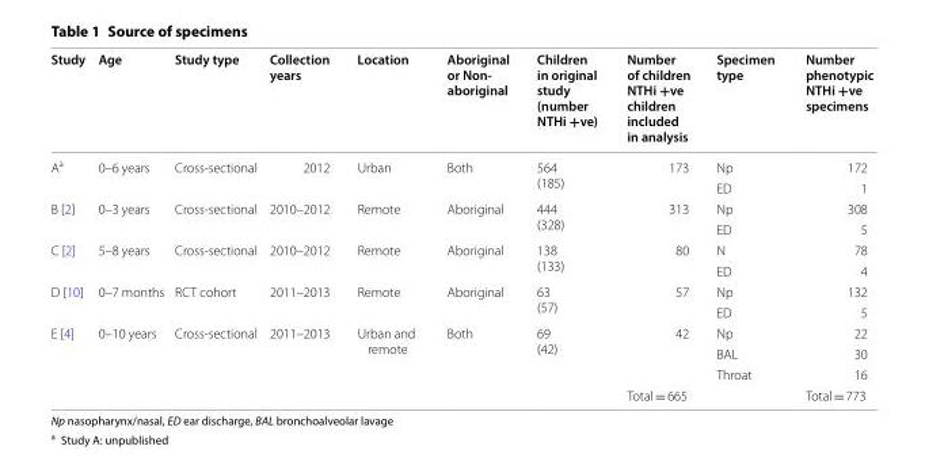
<table><thead><tr><td>Study</td><td>Age</td><td>Study type</td><td>Collection years</td><td>Location</td><td>Aboriginal or Non- aboriginal</td><td>Children in original study (number NTHi +ve)</td><td>Number of children NTHi +ve children included in analysis</td><td>Specimen type</td><td>Number phenotypic NTHi +ve specimens</td></tr></thead><tbody><tr><td rowspan="2">A<sup>a</sup></td><td rowspan="2">0–6 years</td><td rowspan="2">Cross‑sectional</td><td rowspan="2">2012</td><td rowspan="2">Urban</td><td rowspan="2">Both</td><td rowspan="2">564 (185)</td><td rowspan="2">173</td><td>Np</td><td>172</td></tr><tr><td>ED</td><td>1</td></tr><tr><td rowspan="2">B [2]</td><td rowspan="2">0–3 years</td><td rowspan="2">Cross‑sectional</td><td rowspan="2">2010–2012</td><td rowspan="2">Remote</td><td rowspan="2">Aboriginal</td><td rowspan="2">444 (328)</td><td rowspan="2">313</td><td>Np</td><td>308</td></tr><tr><td>ED</td><td>5</td></tr><tr><td rowspan="2">C [2]</td><td rowspan="2">5–8 years</td><td rowspan="2">Cross‑sectional</td><td rowspan="2">2010–2012</td><td rowspan="2">Remote</td><td rowspan="2">Aboriginal</td><td rowspan="2">138 (133)</td><td rowspan="2">80</td><td>N</td><td>78</td></tr><tr><td>ED</td><td>4</td></tr><tr><td rowspan="2">D [10]</td><td rowspan="2">0–7 months</td><td rowspan="2">RCT cohort</td><td rowspan="2">2011–2013</td><td rowspan="2">Remote</td><td rowspan="2">Aboriginal</td><td rowspan="2">63 (57)</td><td rowspan="2">57</td><td>Np</td><td>132</td></tr><tr><td>ED</td><td>5</td></tr><tr><td rowspan="4">E [4]</td><td rowspan="3">0–10 years</td><td rowspan="3">Cross‑sectional</td><td rowspan="3">2011–2013</td><td rowspan="3">Urban and remote</td><td rowspan="3">Both</td><td rowspan="3">69 (42)</td><td rowspan="3">42</td><td>Np</td><td>22</td></tr><tr><td>BAL</td><td>30</td></tr><tr><td>Throat</td><td>16</td></tr><tr><td></td><td></td><td></td><td></td><td></td><td></td><td>Total = 665</td><td></td><td>Total = 773</td></tr></tbody></table>